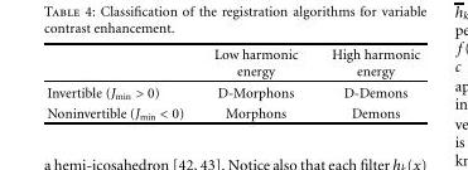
<table><thead><tr><td></td><td>Low harmonic energy</td><td>High harmonic energy</td></tr></thead><tbody><tr><td>Invertible (J<sub>min</sub> &gt; 0)</td><td>D-Morphons</td><td>D-Demons</td></tr><tr><td>Noninvertible (J<sub>min</sub> &lt; 0)</td><td>Morphons</td><td>Demons</td></tr></tbody></table>